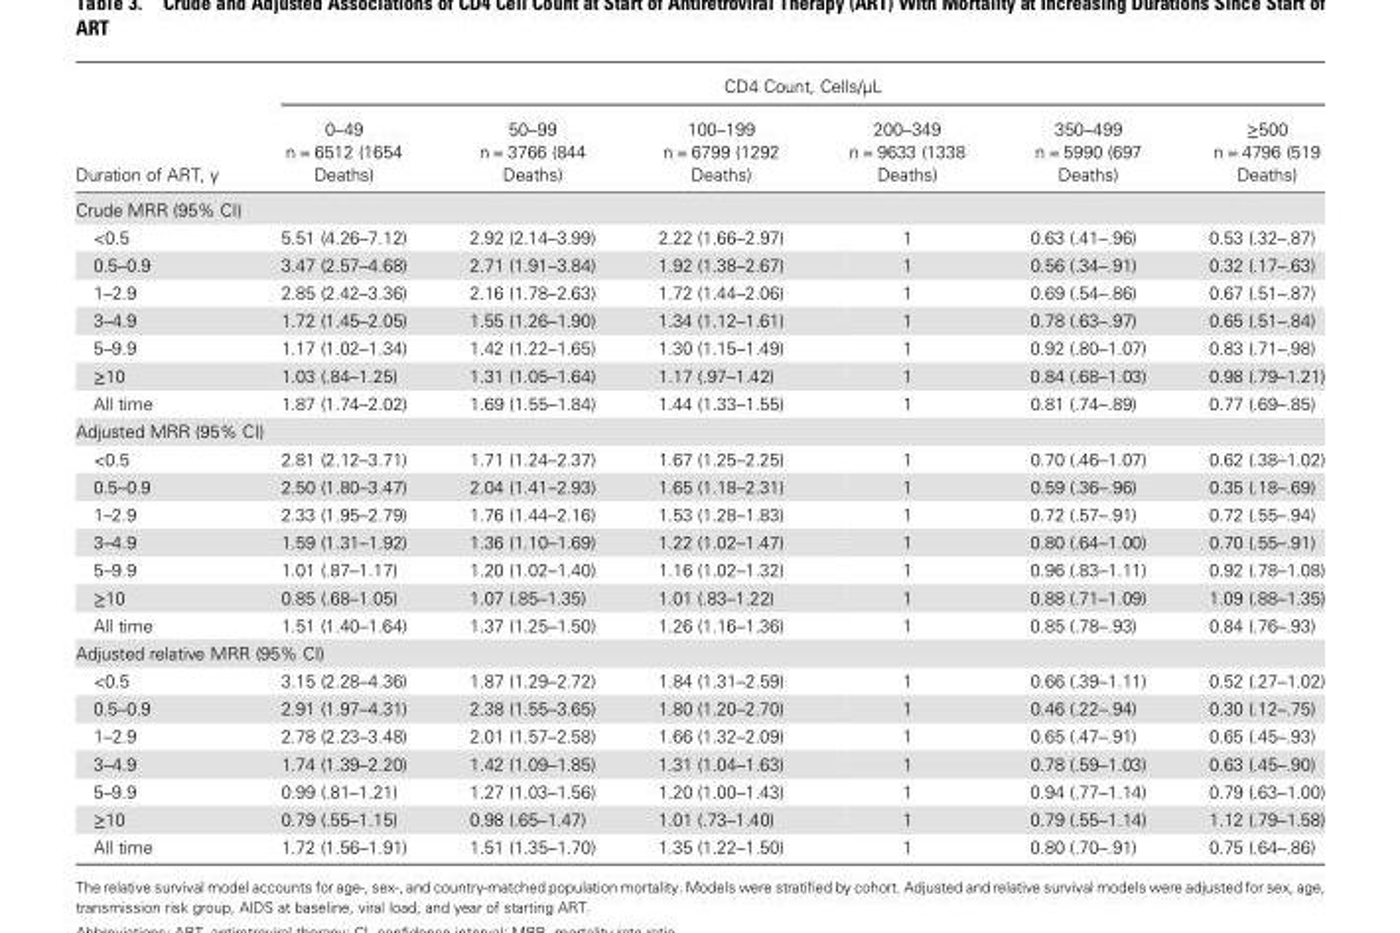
<table><thead><tr><td rowspan="3">Duration of ART, y</td><td colspan="6">CD4 Count, Cells/µL</td></tr><tr><td rowspan="2">0–49 n = 6512 (1654 Deaths)</td><td rowspan="2">50–99 n = 3766 (844 Deaths)</td><td rowspan="2">100–199 n = 6799 (1292 Deaths)</td><td rowspan="2">200–349 n = 9633 (1338 Deaths)</td><td rowspan="2">350–499 n = 5990 (697 Deaths)</td><td rowspan="2">≥500 n = 4796 (519 Deaths)</td></tr><tr></tr></thead><tbody><tr><td colspan="7">Crude MRR (95% CI)</td></tr><tr><td>&lt;0.5</td><td>5.51 (4.26–7.12)</td><td>2.92 (2.14–3.99)</td><td>2.22 (1.66–2.97)</td><td>1</td><td>0.63 (.41–.96)</td><td>0.53 (.32–.87)</td></tr><tr><td>0.5–0.9</td><td>3.47 (2.57–4.68)</td><td>2.71 (1.91–3.84)</td><td>1.92 (1.38–2.67)</td><td>1</td><td>0.56 (.34–.91)</td><td>0.32 (.17–.63)</td></tr><tr><td>1–2.9</td><td>2.85 (2.42–3.36)</td><td>2.16 (1.78–2.63)</td><td>1.72 (1.44–2.06)</td><td>1</td><td>0.69 (.54–.86)</td><td>0.67 (.51–.87)</td></tr><tr><td>3–4.9</td><td>1.72 (1.45–2.05)</td><td>1.55 (1.26–1.90)</td><td>1.34 (1.12–1.61)</td><td>1</td><td>0.78 (.63–.97)</td><td>0.65 (.51–.84)</td></tr><tr><td>5–9.9</td><td>1.17 (1.02–1.34)</td><td>1.42 (1.22–1.65)</td><td>1.30 (1.15–1.49)</td><td>1</td><td>0.92 (.80–1.07)</td><td>0.83 (.71–.98)</td></tr><tr><td>≥10</td><td>1.03 (.84–1.25)</td><td>1.31 (1.05–1.64)</td><td>1.17 (.97–1.42)</td><td>1</td><td>0.84 (.68–1.03)</td><td>0.98 (.79–1.21)</td></tr><tr><td>All time</td><td>1.87 (1.74–2.02)</td><td>1.69 (1.55–1.84)</td><td>1.44 (1.33–1.55)</td><td>1</td><td>0.81 (.74–.89)</td><td>0.77 (.69–.85)</td></tr><tr><td colspan="7">Adjusted MRR (95% CI)</td></tr><tr><td>&lt;0.5</td><td>2.81 (2.12–3.71)</td><td>1.71 (1.24–2.37)</td><td>1.67 (1.25–2.25)</td><td>1</td><td>0.70 (.46–1.07)</td><td>0.62 (.38–1.02)</td></tr><tr><td>0.5–0.9</td><td>2.50 (1.80–3.47)</td><td>2.04 (1.41–2.93)</td><td>1.65 (1.18–2.31)</td><td>1</td><td>0.59 (.36–.96)</td><td>0.35 (.18–.69)</td></tr><tr><td>1–2.9</td><td>2.33 (1.95–2.79)</td><td>1.76 (1.44–2.16)</td><td>1.53 (1.28–1.83)</td><td>1</td><td>0.72 (.57–.91)</td><td>0.72 (.55–.94)</td></tr><tr><td>3–4.9</td><td>1.59 (1.31–1.92)</td><td>1.36 (1.10–1.69)</td><td>1.22 (1.02–1.47)</td><td>1</td><td>0.80 (.64–1.00)</td><td>0.70 (.55–.91)</td></tr><tr><td>5–9.9</td><td>1.01 (.87–1.17)</td><td>1.20 (1.02–1.40)</td><td>1.16 (1.02–1.32)</td><td>1</td><td>0.96 (.83–1.11)</td><td>0.92 (.78–1.08)</td></tr><tr><td>≥10</td><td>0.85 (.68–1.05)</td><td>1.07 (.85–1.35)</td><td>1.01 (.83–1.22)</td><td>1</td><td>0.88 (.71–1.09)</td><td>1.09 (.88–1.35)</td></tr><tr><td>All time</td><td>1.51 (1.40–1.64)</td><td>1.37 (1.25–1.50)</td><td>1.26 (1.16–1.36)</td><td>1</td><td>0.85 (.78–.93)</td><td>0.84 (.76–.93)</td></tr><tr><td colspan="7">Adjusted relative MRR (95% CI)</td></tr><tr><td>&lt;0.5</td><td>3.15 (2.28–4.36)</td><td>1.87 (1.29–2.72)</td><td>1.84 (1.31–2.59)</td><td>1</td><td>0.66 (.39–1.11)</td><td>0.52 (.27–1.02)</td></tr><tr><td>0.5–0.9</td><td>2.91 (1.97–4.31)</td><td>2.38 (1.55–3.65)</td><td>1.80 (1.20–2.70)</td><td>1</td><td>0.46 (.22–.94)</td><td>0.30 (.12–.75)</td></tr><tr><td>1–2.9</td><td>2.78 (2.23–3.48)</td><td>2.01 (1.57–2.58)</td><td>1.66 (1.32–2.09)</td><td>1</td><td>0.65 (.47–.91)</td><td>0.65 (.45–.93)</td></tr><tr><td>3–4.9</td><td>1.74 (1.39–2.20)</td><td>1.42 (1.09–1.85)</td><td>1.31 (1.04–1.63)</td><td>1</td><td>0.78 (.59–1.03)</td><td>0.63 (.45–.90)</td></tr><tr><td>5–9.9</td><td>0.99 (.81–1.21)</td><td>1.27 (1.03–1.56)</td><td>1.20 (1.00–1.43)</td><td>1</td><td>0.94 (.77–1.14)</td><td>0.79 (.63–1.00)</td></tr><tr><td>≥10</td><td>0.79 (.55–1.15)</td><td>0.98 (.65–1.47)</td><td>1.01 (.73–1.40)</td><td>1</td><td>0.79 (.55–1.14)</td><td>1.12 (.79–1.58)</td></tr><tr><td>All time</td><td>1.72 (1.56–1.91)</td><td>1.51 (1.35–1.70)</td><td>1.35 (1.22–1.50)</td><td>1</td><td>0.80 (.70–.91)</td><td>0.75 (.64–.86)</td></tr></tbody></table>